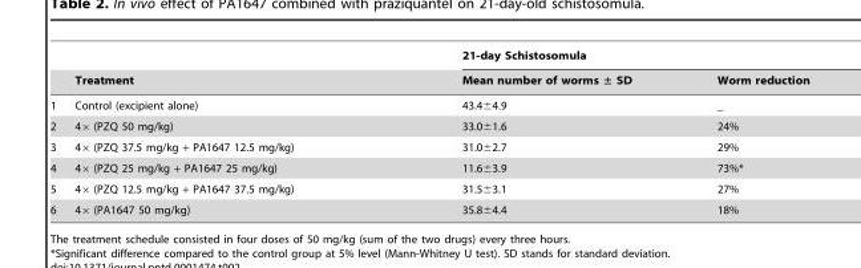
<table><thead><tr><td rowspan="2"></td><td rowspan="2">Treatment</td><td colspan="2">21-day Schistosomula</td></tr><tr><td>Mean number of worms ± SD</td><td>Worm reduction</td></tr></thead><tbody><tr><td>1</td><td>Control (excipient alone)</td><td>43.4±4.9</td><td>_</td></tr><tr><td>2</td><td>4× (PZQ 50 mg/kg)</td><td>33.0±1.6</td><td>24%</td></tr><tr><td>3</td><td>4× (PZQ 37.5 mg/kg + PA1647 12.5 mg/kg)</td><td>31.0±2.7</td><td>29%</td></tr><tr><td>4</td><td>4× (PZQ 25 mg/kg + PA1647 25 mg/kg)</td><td>11.6±3.9</td><td>73%*</td></tr><tr><td>5</td><td>4× (PZQ 12.5 mg/kg + PA1647 37.5 mg/kg)</td><td>31.5±3.1</td><td>27%</td></tr><tr><td>6</td><td>4× (PA1647 50 mg/kg)</td><td>35.8±4.4</td><td>18%</td></tr></tbody></table>